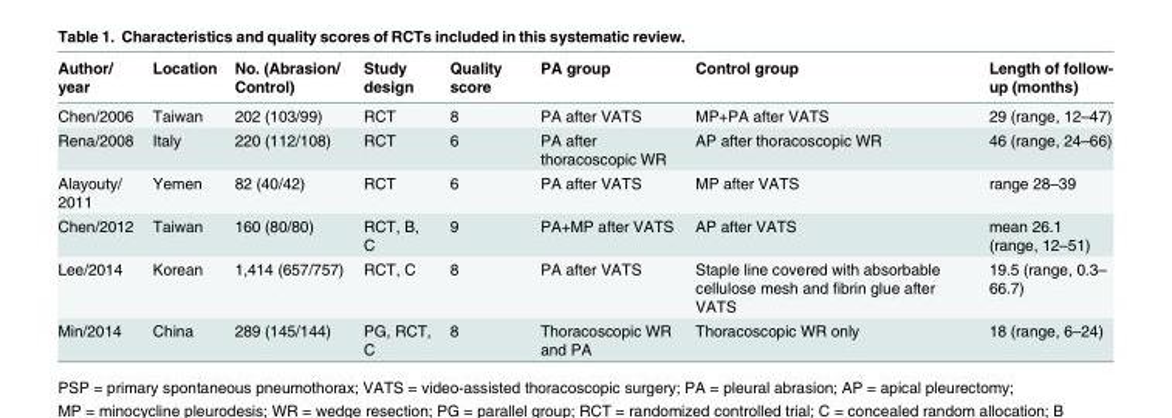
<table><thead><tr><td>Author/ year</td><td>Location</td><td>No. (Abrasion/ Control)</td><td>Study design</td><td>Quality score</td><td>PA group</td><td>Control group</td><td>Length of follow- up (months)</td></tr></thead><tbody><tr><td>Chen/2006</td><td>Taiwan</td><td>202 (103/99)</td><td>RCT</td><td>8</td><td>PA after VATS</td><td>MP+PA after VATS</td><td>29 (range, 12–47)</td></tr><tr><td>Rena/2008</td><td>Italy</td><td>220 (112/108)</td><td>RCT</td><td>6</td><td>PA after thoracoscopic WR</td><td>AP after thoracoscopic WR</td><td>46 (range, 24–66)</td></tr><tr><td>Alayouty/ 2011</td><td>Yemen</td><td>82 (40/42)</td><td>RCT</td><td>6</td><td>PA after VATS</td><td>MP after VATS</td><td>range 28–39</td></tr><tr><td>Chen/2012</td><td>Taiwan</td><td>160 (80/80)</td><td>RCT, B, C</td><td>9</td><td>PA+MP after VATS</td><td>AP after VATS</td><td>mean 26.1 (range, 12–51)</td></tr><tr><td>Lee/2014</td><td>Korean</td><td>1,414 (657/757)</td><td>RCT, C</td><td>8</td><td>PA after VATS</td><td>Staple line covered with absorbable cellulose mesh and fibrin glue after VATS</td><td>19.5 (range, 0.3– 66.7)</td></tr><tr><td>Min/2014</td><td>China</td><td>289 (145/144)</td><td>PG, RCT, C</td><td>8</td><td>Thoracoscopic WR and PA</td><td>Thoracoscopic WR only</td><td>18 (range, 6–24)</td></tr></tbody></table>